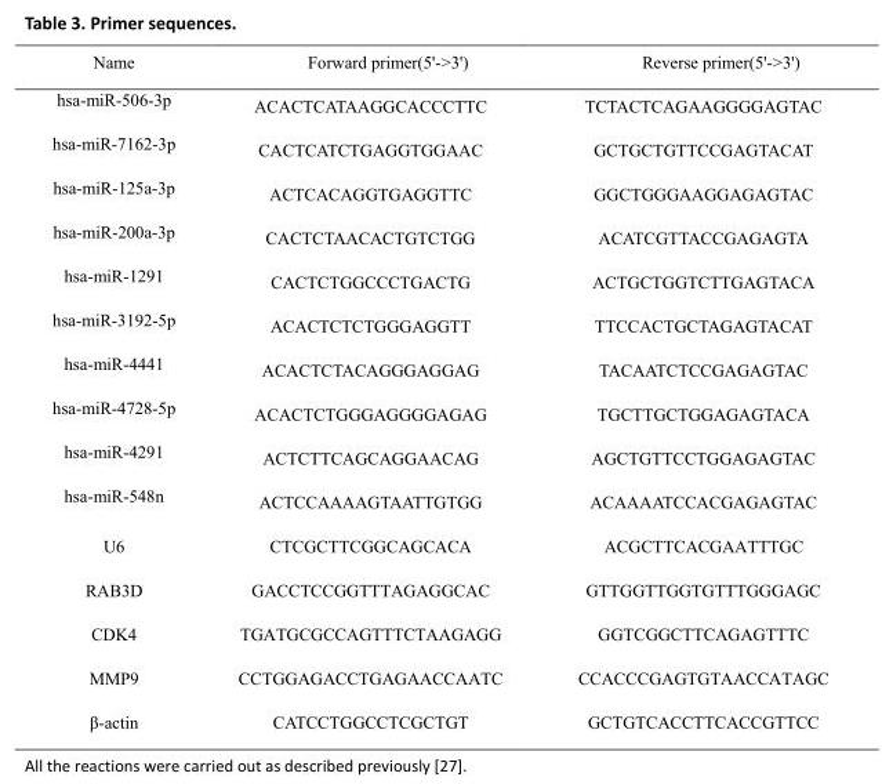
<table><tbody><tr><td>Name</td><td>Forward primer(5&#x27;-&gt;3&#x27;)</td><td>Reverse primer(5&#x27;-&gt;3&#x27;)</td></tr><tr><td>hsa-miR-506-3p</td><td>ACACTCATAAGGCACCCTTC</td><td>TCTACTCAGAAGGGGAGTAC</td></tr><tr><td>hsa-miR-7162-3p</td><td>CACTCATCTGAGGTGGAAC</td><td>GCTGCTGTTCCGAGTACAT</td></tr><tr><td>hsa-miR-125a-3p</td><td>ACTCACAGGTGAGGTTC</td><td>GGCTGGGAAGGAGAGTAC</td></tr><tr><td>hsa-miR-200a-3p</td><td>CACTCTAACACTGTCTGG</td><td>ACATCGTTACCGAGAGTA</td></tr><tr><td>hsa-miR-1291</td><td>CACTCTGGCCCTGACTG</td><td>ACTGCTGGTCTTGAGTACA</td></tr><tr><td>hsa-miR-3192-5p</td><td>ACACTCTCTGGGAGGTT</td><td>TTCCACTGCTAGAGTACAT</td></tr><tr><td>hsa-miR-4441</td><td>ACACTCTACAGGGAGGAG</td><td>TACAATCTCCGAGAGTAC</td></tr><tr><td>hsa-miR-4728-5p</td><td>ACACTCTGGGAGGGGAGAG</td><td>TGCTTGCTGGAGAGTACA</td></tr><tr><td>hsa-miR-4291</td><td>ACTCTTCAGCAGGAACAG</td><td>AGCTGTTCCTGGAGAGTAC</td></tr><tr><td>hsa-miR-548n</td><td>ACTCCAAAAGTAATTGTGG</td><td>ACAAAATCCACGAGAGTAC</td></tr><tr><td>U6</td><td>CTCGCTTCGGCAGCACA</td><td>ACGCTTCACGAATTTGC</td></tr><tr><td>RAB3D</td><td>GACCTCCGGTTTAGAGGCAC</td><td>GTTGGTTGGTGTTTGGGAGC</td></tr><tr><td>CDK4</td><td>TGATGCGCCAGTTTCTAAGAGG</td><td>GGTCGGCTTCAGAGTTTC</td></tr><tr><td>MMP9</td><td>CCTGGAGACCTGAGAACCAATC</td><td>CCACCCGAGTGTAACCATAGC</td></tr><tr><td>β-actin</td><td>CATCCTGGCCTCGCTGT</td><td>GCTGTCACCTTCACCGTTCC</td></tr></tbody></table>